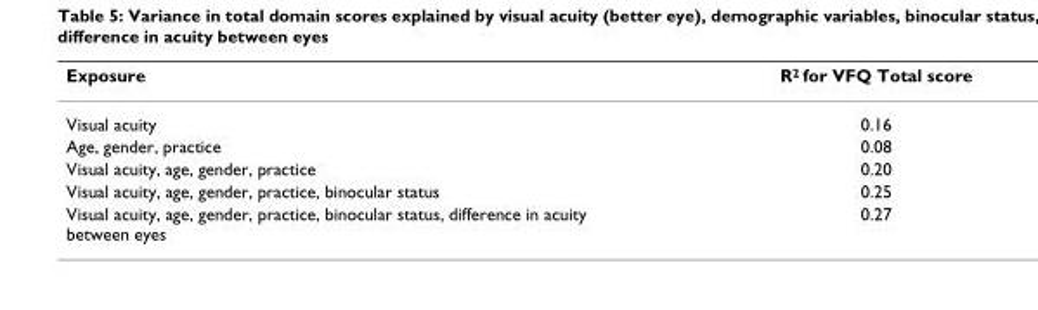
<table><thead><tr><td>Exposure</td><td>R<sup>2</sup> for VFQ Total score</td></tr></thead><tbody><tr><td>Visual acuity</td><td>0.16</td></tr><tr><td>Age, gender, practice</td><td>0.08</td></tr><tr><td>Visual acuity, age, gender, practice</td><td>0.20</td></tr><tr><td>Visual acuity, age, gender, practice, binocular status</td><td>0.25</td></tr><tr><td>Visual acuity, age, gender, practice, binocular status, difference in acuity between eyes</td><td>0.27</td></tr></tbody></table>